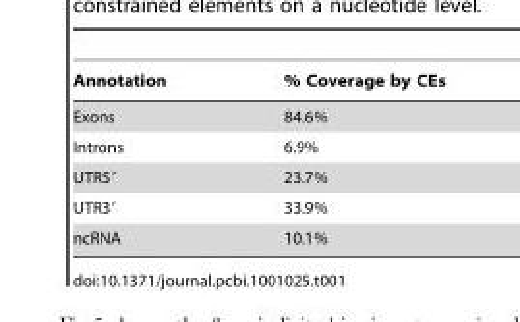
<table><thead><tr><td>Annotation</td><td>% Coverage by CEs</td></tr></thead><tbody><tr><td>Exons</td><td>84.6%</td></tr><tr><td>Introns</td><td>6.9%</td></tr><tr><td>UTR5′</td><td>23.7%</td></tr><tr><td>UTR3′</td><td>33.9%</td></tr><tr><td>ncRNA</td><td>10.1%</td></tr></tbody></table>